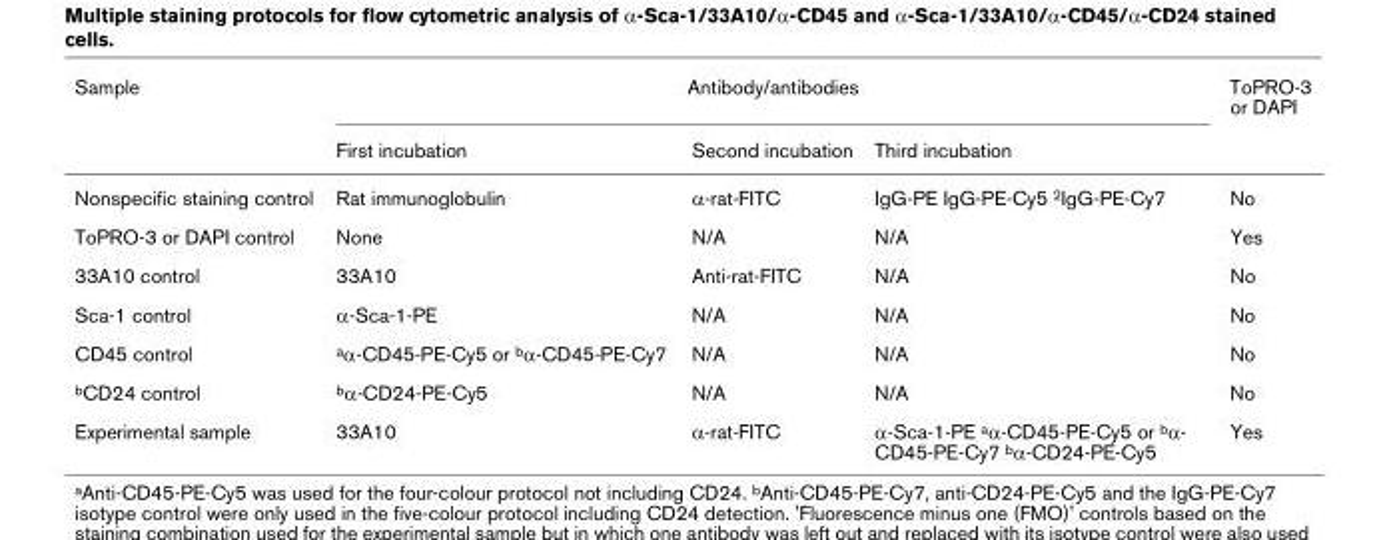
<table><thead><tr><td rowspan="2">Sample</td><td colspan="3">Antibody/antibodies</td><td rowspan="2">ToPRO-3 or DAPI</td></tr><tr><td>First incubation</td><td>Second incubation</td><td>Third incubation</td></tr></thead><tbody><tr><td>Nonspecific staining control</td><td>Rat immunoglobulin</td><td>α-rat-FITC</td><td>IgG-PE IgG-PE-Cy5 <sup>2</sup>IgG-PE-Cy7</td><td>No</td></tr><tr><td>ToPRO-3 or DAPI control</td><td>None</td><td>N/A</td><td>N/A</td><td>Yes</td></tr><tr><td>33A10 control</td><td>33A10</td><td>Anti-rat-FITC</td><td>N/A</td><td>No</td></tr><tr><td>Sca-1 control</td><td>α-Sca-1-PE</td><td>N/A</td><td>N/A</td><td>No</td></tr><tr><td>CD45 control</td><td><sup>a</sup>α-CD45-PE-Cy5 or <sup>b</sup>α-CD45-PE-Cy7</td><td>N/A</td><td>N/A</td><td>No</td></tr><tr><td><sup>b</sup>CD24 control</td><td><sup>b</sup>α-CD24-PE-Cy5</td><td>N/A</td><td>N/A</td><td>No</td></tr><tr><td>Experimental sample</td><td>33A10</td><td>α-rat-FITC</td><td>α-Sca-1-PE <sup>a</sup>α-CD45-PE-Cy5 or <sup>b</sup>α- CD45-PE-Cy7 <sup>b</sup>α-CD24-PE-Cy5</td><td>Yes</td></tr></tbody></table>